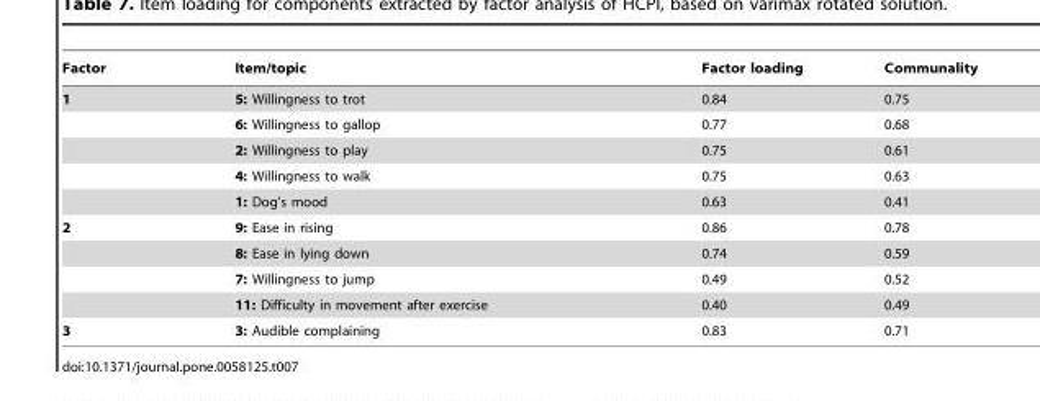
<table><thead><tr><td>Factor</td><td>Item/topic</td><td>Factor loading</td><td>Communality</td></tr></thead><tbody><tr><td rowspan="5">1</td><td>5: Willingness to trot</td><td>0.84</td><td>0.75</td></tr><tr><td>6: Willingness to gallop</td><td>0.77</td><td>0.68</td></tr><tr><td>2: Willingness to play</td><td>0.75</td><td>0.61</td></tr><tr><td>4: Willingness to walk</td><td>0.75</td><td>0.63</td></tr><tr><td>1: Dog’s mood</td><td>0.63</td><td>0.41</td></tr><tr><td rowspan="4">2</td><td>9: Ease in rising</td><td>0.86</td><td>0.78</td></tr><tr><td>8: Ease in lying down</td><td>0.74</td><td>0.59</td></tr><tr><td>7: Willingness to jump</td><td>0.49</td><td>0.52</td></tr><tr><td>11: Difficulty in movement after exercise</td><td>0.40</td><td>0.49</td></tr><tr><td>3</td><td>3: Audible complaining</td><td>0.83</td><td>0.71</td></tr></tbody></table>